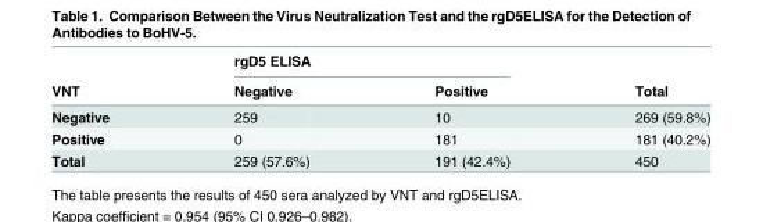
<table><thead><tr><td rowspan="2">VNT</td><td colspan="2">rgD5 ELISA</td><td rowspan="2">Total</td></tr><tr><td>Negative</td><td>Positive</td></tr></thead><tbody><tr><td>Negative</td><td>259</td><td>10</td><td>269 (59.8%)</td></tr><tr><td>Positive</td><td>0</td><td>181</td><td>181 (40.2%)</td></tr><tr><td>Total</td><td>259 (57.6%)</td><td>191 (42.4%)</td><td>450</td></tr></tbody></table>